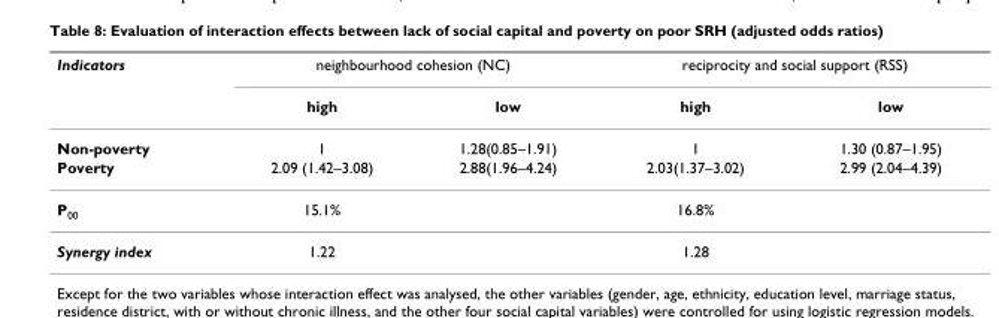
<table><thead><tr><td rowspan="2">Indicators</td><td colspan="2">neighbourhood cohesion (NC)</td><td colspan="2">reciprocity and social support (RSS)</td></tr><tr><td>high</td><td>low</td><td>high</td><td>low</td></tr></thead><tbody><tr><td>Non-poverty</td><td>1</td><td>1.28(0.85–1.91)</td><td>1</td><td>1.30 (0.87–1.95)</td></tr><tr><td>Poverty</td><td>2.09 (1.42–3.08)</td><td>2.88(1.96–4.24)</td><td>2.03(1.37–3.02)</td><td>2.99 (2.04–4.39)</td></tr><tr><td>P<sub>00</sub></td><td>15.1%</td><td></td><td>16.8%</td><td></td></tr><tr><td>Synergy index</td><td>1.22</td><td></td><td>1.28</td><td></td></tr></tbody></table>